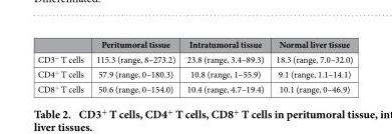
<table><thead><tr><td></td><td>Peritumoral tissue</td><td>Intratumoral tissue</td><td>Normal liver tissue</td></tr></thead><tbody><tr><td>CD3<sup>+</sup> T cells</td><td>115.3 (range, 8–273.2)</td><td>23.8 (range, 3.4–89.3)</td><td>18.3 (range, 7.0–32.0)</td></tr><tr><td>CD4<sup>+</sup> T cells</td><td>57.9 (range, 0–180.3)</td><td>10.8 (range, 1–55.9)</td><td>9.1 (range, 1.1–14.1)</td></tr><tr><td>CD8<sup>+</sup> T cells</td><td>50.6 (range, 0–154.0)</td><td>10.4 (range, 4.7–19.4)</td><td>10.1 (range, 0–46.9)</td></tr></tbody></table>